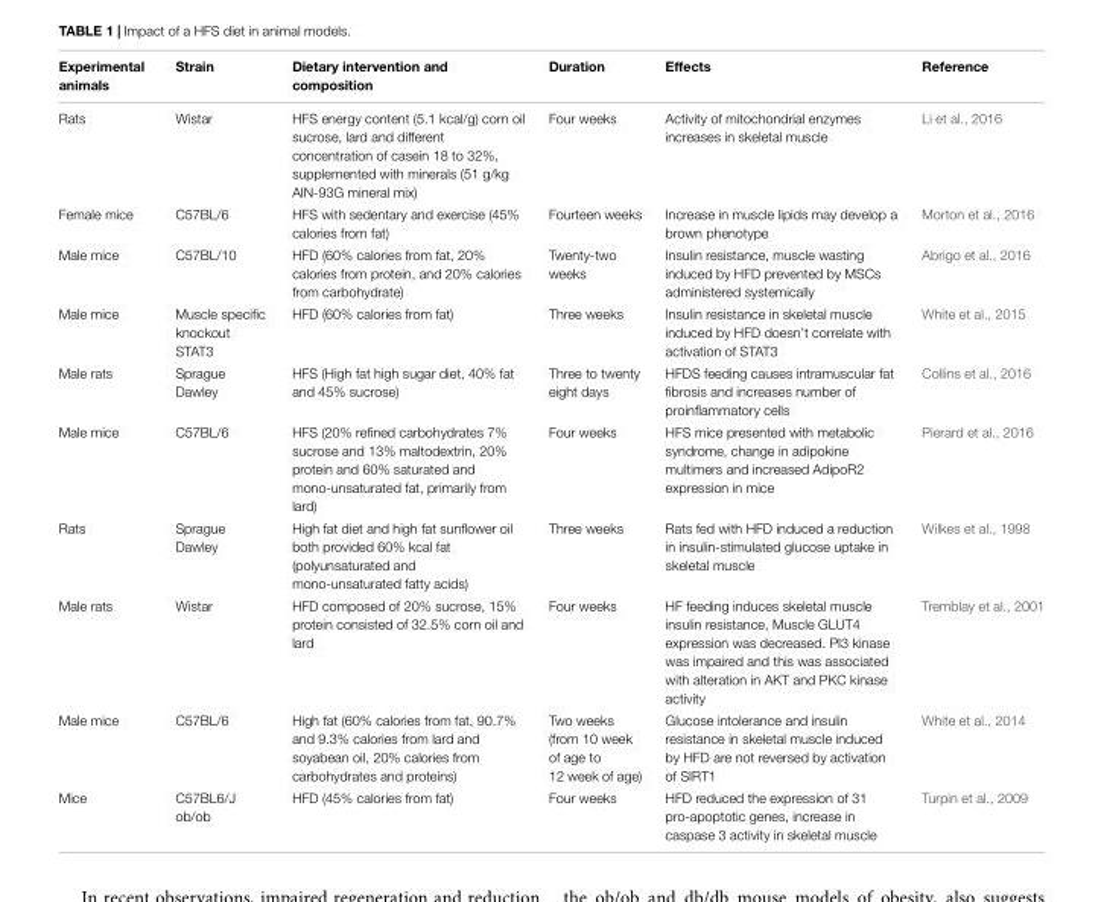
<table><thead><tr><td>Experimental animals</td><td>Strain</td><td>Dietary intervention and composition</td><td>Duration</td><td>Effects</td><td>Reference</td></tr></thead><tbody><tr><td>Rats</td><td>Wistar</td><td>HFS energy content (5.1 kcal/g) corn oil sucrose, lard and different concentration of casein 18 to 32%, supplemented with minerals (51 g/kg AIN-93G mineral mix)</td><td>Four weeks</td><td>Activity of mitochondrial enzymes increases in skeletal muscle</td><td>Li et al., 2016</td></tr><tr><td>Female mice</td><td>C57BL/6</td><td>HFS with sedentary and exercise (45% calories from fat)</td><td>Fourteen weeks</td><td>Increase in muscle lipids may develop a brown phenotype</td><td>Morton et al., 2016</td></tr><tr><td>Male mice</td><td>C57BL/10</td><td>HFD (60% calories from fat, 20% calories from protein, and 20% calories from carbohydrate)</td><td>Twenty-two weeks</td><td>Insulin resistance, muscle wasting induced by HFD prevented by MSCs administered systemically</td><td>Abrigo et al., 2016</td></tr><tr><td>Male mice</td><td>Muscle specific knockout STAT3</td><td>HFD (60% calories from fat)</td><td>Three weeks</td><td>Insulin resistance in skeletal muscle induced by HFD doesn’t correlate with activation of STAT3</td><td>White et al., 2015</td></tr><tr><td>Male rats</td><td>Sprague Dawley</td><td>HFS (High fat high sugar diet, 40% fat and 45% sucrose)</td><td>Three to twenty eight days</td><td>HFDS feeding causes intramuscular fat fibrosis and increases number of proinflammatory cells</td><td>Collins et al., 2016</td></tr><tr><td>Male mice</td><td>C57BL/6</td><td>HFS (20% refined carbohydrates 7% sucrose and 13% maltodextrin, 20% protein and 60% saturated and mono-unsaturated fat, primarily from lard)</td><td>Four weeks</td><td>HFS mice presented with metabolic syndrome, change in adipokine multimers and increased AdipoR2 expression in mice</td><td>Pierard et al., 2016</td></tr><tr><td>Rats</td><td>Sprague Dawley</td><td>High fat diet and high fat sunflower oil both provided 60% kcal fat (polyunsaturated and mono-unsaturated fatty acids)</td><td>Three weeks</td><td>Rats fed with HFD induced a reduction in insulin-stimulated glucose uptake in skeletal muscle</td><td>Wilkes et al., 1998</td></tr><tr><td>Male rats</td><td>Wistar</td><td>HFD composed of 20% sucrose, 15% protein consisted of 32.5% corn oil and lard</td><td>Four weeks</td><td>HF feeding induces skeletal muscle insulin resistance, Muscle GLUT4 expression was decreased. PI3 kinase was impaired and this was associated with alteration in AKT and PKC kinase activity</td><td>Tremblay et al., 2001</td></tr><tr><td>Male mice</td><td>C57BL/6</td><td>High fat (60% calories from fat, 90.7% and 9.3% calories from lard and soyabean oil, 20% calories from carbohydrates and proteins)</td><td>Two weeks (from 10 week of age to 12 week of age)</td><td>Glucose intolerance and insulin resistance in skeletal muscle induced by HFD are not reversed by activation of SIRT1</td><td>White et al., 2014</td></tr><tr><td>Mice</td><td>C57BL6/J ob/ob</td><td>HFD (45% calories from fat)</td><td>Four weeks</td><td>HFD reduced the expression of 31 pro-apoptotic genes, increase in caspase 3 activity in skeletal muscle</td><td>Turpin et al., 2009</td></tr></tbody></table>